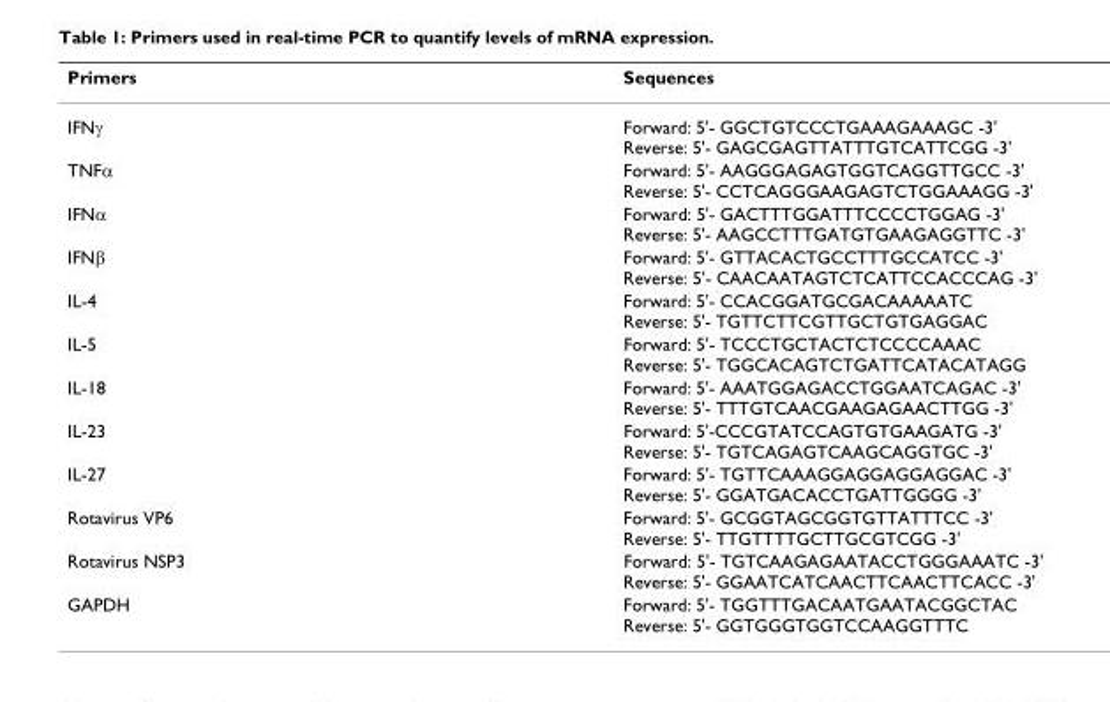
<table><thead><tr><td>Primers</td><td>Sequences</td></tr></thead><tbody><tr><td>IFNγ</td><td>Forward: 5&#x27;- GGCTGTCCCTGAAAGAAAGC -3&#x27; Reverse: 5&#x27;- GAGCGAGTTATTTGTCATTCGG -3&#x27;</td></tr><tr><td>TNFα</td><td>Forward: 5&#x27;- AAGGGAGAGTGGTCAGGTTGCC -3&#x27; Reverse: 5&#x27;- CCTCAGGGAAGAGTCTGGAAAGG -3&#x27;</td></tr><tr><td>IFNα</td><td>Forward: 5&#x27;- GACTTTGGATTTCCCCTGGAG -3&#x27; Reverse: 5&#x27;- AAGCCTTTGATGTGAAGAGGTTC -3&#x27;</td></tr><tr><td>IFNβ</td><td>Forward: 5&#x27;- GTTACACTGCCTTTGCCATCC -3&#x27; Reverse: 5&#x27;- CAACAATAGTCTCATTCCACCCAG -3&#x27;</td></tr><tr><td>IL-4</td><td>Forward: 5&#x27;- CCACGGATGCGACAAAAATC Reverse: 5&#x27;- TGTTCTTCGTTGCTGTGAGGAC</td></tr><tr><td>IL-5</td><td>Forward: 5&#x27;- TCCCTGCTACTCTCCCCAAAC Reverse: 5&#x27;- TGGCACAGTCTGATTCATACATAGG</td></tr><tr><td>IL-18</td><td>Forward: 5&#x27;- AAATGGAGACCTGGAATCAGAC -3&#x27; Reverse: 5&#x27;- TTTGTCAACGAAGAGAACTTGG -3&#x27;</td></tr><tr><td>IL-23</td><td>Forward: 5&#x27;-CCCGTATCCAGTGTGAAGATG -3&#x27; Reverse: 5&#x27;- TGTCAGAGTCAAGCAGGTGC -3&#x27;</td></tr><tr><td>IL-27</td><td>Forward: 5&#x27;- TGTTCAAAGGAGGAGGAGGAC -3&#x27; Reverse: 5&#x27;- GGATGACACCTGATTGGGG -3&#x27;</td></tr><tr><td>Rotavirus VP6</td><td>Forward: 5&#x27;- GCGGTAGCGGTGTTATTTCC -3&#x27; Reverse: 5&#x27;- TTGTTTTGCTTGCGTCGG -3&#x27;</td></tr><tr><td>Rotavirus NSP3</td><td>Forward: 5&#x27;- TGTCAAGAGAATACCTGGGAAATC -3&#x27; Reverse: 5&#x27;- GGAATCATCAACTTCAACTTCACC -3&#x27;</td></tr><tr><td>GAPDH</td><td>Forward: 5&#x27;- TGGTTTGACAATGAATACGGCTAC Reverse: 5&#x27;- GGTGGGTGGTCCAAGGTTTC</td></tr></tbody></table>